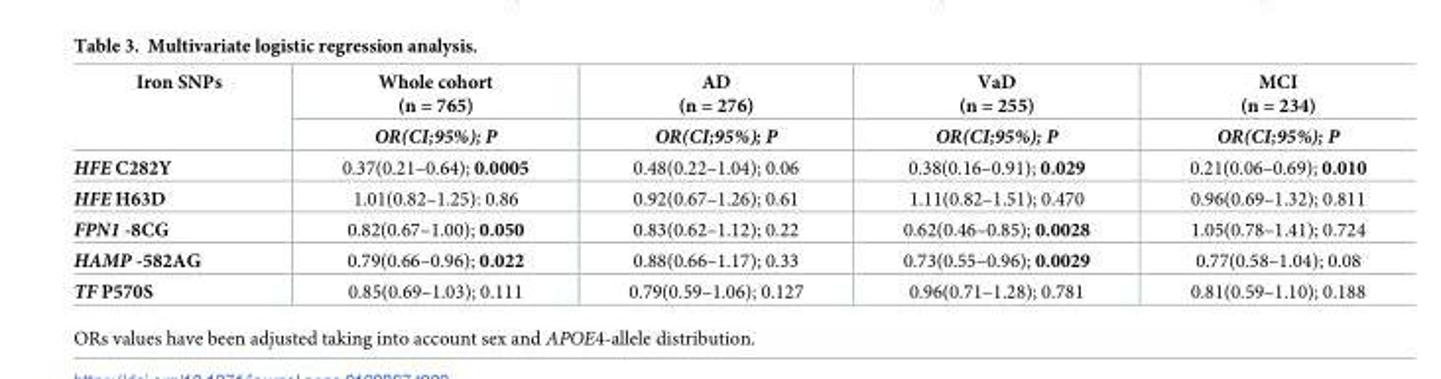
<table><thead><tr><td rowspan="2">Iron SNPs</td><td rowspan="2">Whole cohort (n = 765) OR(CI;95%); P</td><td rowspan="2">AD (n = 276) OR(CI;95%); P</td><td rowspan="2">VaD (n = 255) OR(CI;95%); P</td><td rowspan="2">MCI (n = 234) OR(CI;95%); P</td></tr><tr></tr></thead><tbody><tr><td>HFE C282Y</td><td>0.37(0.21–0.64); 0.0005</td><td>0.48(0.22–1.04); 0.06</td><td>0.38(0.16–0.91); 0.029</td><td>0.21(0.06–0.69); 0.010</td></tr><tr><td>HFE H63D</td><td>1.01(0.82–1.25): 0.86</td><td>0.92(0.67–1.26); 0.61</td><td>1.11(0.82–1.51); 0.470</td><td>0.96(0.69–1.32); 0.811</td></tr><tr><td>FPN1 -8CG</td><td>0.82(0.67–1.00); 0.050</td><td>0.83(0.62–1.12); 0.22</td><td>0.62(0.46–0.85); 0.0028</td><td>1.05(0.78–1.41); 0.724</td></tr><tr><td>HAMP -582AG</td><td>0.79(0.66–0.96); 0.022</td><td>0.88(0.66–1.17); 0.33</td><td>0.73(0.55–0.96); 0.0029</td><td>0.77(0.58–1.04); 0.08</td></tr><tr><td>TF P570S</td><td>0.85(0.69–1.03); 0.111</td><td>0.79(0.59–1.06); 0.127</td><td>0.96(0.71–1.28); 0.781</td><td>0.81(0.59–1.10); 0.188</td></tr></tbody></table>